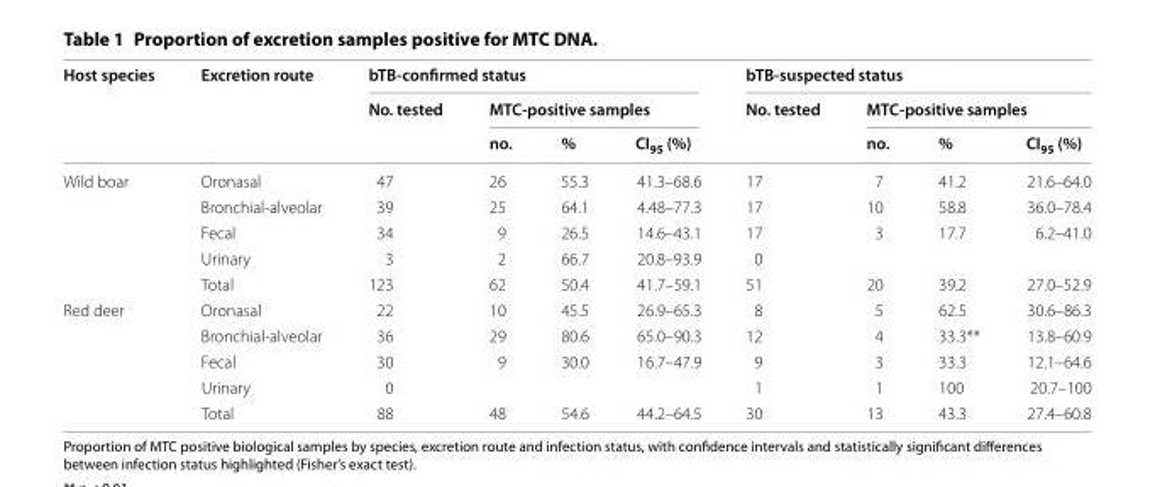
<table><thead><tr><td rowspan="3">Host species</td><td rowspan="3">Excretion route</td><td colspan="4">bTB‑confirmed status</td><td colspan="4">bTB‑suspected status</td></tr><tr><td rowspan="2">No. tested</td><td colspan="3">MTC‑positive samples</td><td rowspan="2">No. tested</td><td colspan="3">MTC‑positive samples</td></tr><tr><td>no.</td><td>%</td><td>CI<sub>95</sub> (%)</td><td>no.</td><td>%</td><td>CI<sub>95</sub> (%)</td></tr></thead><tbody><tr><td rowspan="5">Wild boar</td><td>Oronasal</td><td>47</td><td>26</td><td>55.3</td><td>41.3–68.6</td><td>17</td><td>7</td><td>41.2</td><td>21.6–64.0</td></tr><tr><td>Bronchial‑alveolar</td><td>39</td><td>25</td><td>64.1</td><td>4.48–77.3</td><td>17</td><td>10</td><td>58.8</td><td>36.0–78.4</td></tr><tr><td>Fecal</td><td>34</td><td>9</td><td>26.5</td><td>14.6–43.1</td><td>17</td><td>3</td><td>17.7</td><td>6.2–41.0</td></tr><tr><td>Urinary</td><td>3</td><td>2</td><td>66.7</td><td>20.8–93.9</td><td>0</td><td></td><td></td><td></td></tr><tr><td>Total</td><td>123</td><td>62</td><td>50.4</td><td>41.7–59.1</td><td>51</td><td>20</td><td>39.2</td><td>27.0–52.9</td></tr><tr><td rowspan="5">Red deer</td><td>Oronasal</td><td>22</td><td>10</td><td>45.5</td><td>26.9–65.3</td><td>8</td><td>5</td><td>62.5</td><td>30.6–86.3</td></tr><tr><td>Bronchial‑alveolar</td><td>36</td><td>29</td><td>80.6</td><td>65.0–90.3</td><td>12</td><td>4</td><td>33.3**</td><td>13.8–60.9</td></tr><tr><td>Fecal</td><td>30</td><td>9</td><td>30.0</td><td>16.7–47.9</td><td>9</td><td>3</td><td>33.3</td><td>12.1–64.6</td></tr><tr><td>Urinary</td><td>0</td><td></td><td></td><td></td><td>1</td><td>1</td><td>100</td><td>20.7–100</td></tr><tr><td>Total</td><td>88</td><td>48</td><td>54.6</td><td>44.2–64.5</td><td>30</td><td>13</td><td>43.3</td><td>27.4–60.8</td></tr></tbody></table>